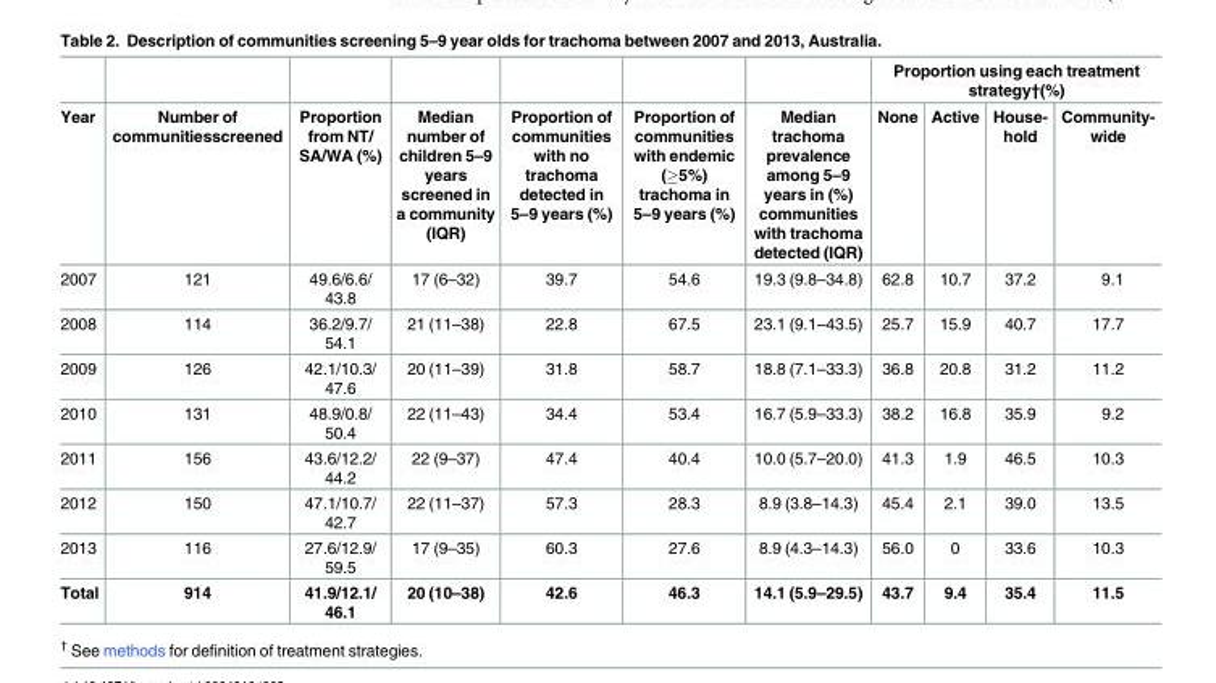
<table><thead><tr><td rowspan="2">Year</td><td rowspan="2">Number of communitiesscreened</td><td rowspan="2">Proportion from NT/ SA/WA (%)</td><td rowspan="2">Median number of children 5–9 years screened in a community (IQR)</td><td rowspan="2">Proportion of communities with no trachoma detected in 5–9 years (%)</td><td rowspan="2">Proportion of communities with endemic (≥5%) trachoma in 5–9 years (%)</td><td rowspan="2">Median trachoma prevalence among 5–9 years in (%) communities with trachoma detected (IQR)</td><td colspan="4">Proportion using each treatment strategy†(%)</td></tr><tr><td>None</td><td>Active</td><td>House- hold</td><td>Community- wide</td></tr></thead><tbody><tr><td>2007</td><td>121</td><td>49.6/6.6/ 43.8</td><td>17 (6–32)</td><td>39.7</td><td>54.6</td><td>19.3 (9.8–34.8)</td><td>62.8</td><td>10.7</td><td>37.2</td><td>9.1</td></tr><tr><td>2008</td><td>114</td><td>36.2/9.7/ 54.1</td><td>21 (11–38)</td><td>22.8</td><td>67.5</td><td>23.1 (9.1–43.5)</td><td>25.7</td><td>15.9</td><td>40.7</td><td>17.7</td></tr><tr><td>2009</td><td>126</td><td>42.1/10.3/ 47.6</td><td>20 (11–39)</td><td>31.8</td><td>58.7</td><td>18.8 (7.1–33.3)</td><td>36.8</td><td>20.8</td><td>31.2</td><td>11.2</td></tr><tr><td>2010</td><td>131</td><td>48.9/0.8/ 50.4</td><td>22 (11–43)</td><td>34.4</td><td>53.4</td><td>16.7 (5.9–33.3)</td><td>38.2</td><td>16.8</td><td>35.9</td><td>9.2</td></tr><tr><td>2011</td><td>156</td><td>43.6/12.2/ 44.2</td><td>22 (9–37)</td><td>47.4</td><td>40.4</td><td>10.0 (5.7–20.0)</td><td>41.3</td><td>1.9</td><td>46.5</td><td>10.3</td></tr><tr><td>2012</td><td>150</td><td>47.1/10.7/ 42.7</td><td>22 (11–37)</td><td>57.3</td><td>28.3</td><td>8.9 (3.8–14.3)</td><td>45.4</td><td>2.1</td><td>39.0</td><td>13.5</td></tr><tr><td>2013</td><td>116</td><td>27.6/12.9/ 59.5</td><td>17 (9–35)</td><td>60.3</td><td>27.6</td><td>8.9 (4.3–14.3)</td><td>56.0</td><td>0</td><td>33.6</td><td>10.3</td></tr><tr><td>Total</td><td>914</td><td>41.9/12.1/ 46.1</td><td>20 (10–38)</td><td>42.6</td><td>46.3</td><td>14.1 (5.9–29.5)</td><td>43.7</td><td>9.4</td><td>35.4</td><td>11.5</td></tr></tbody></table>